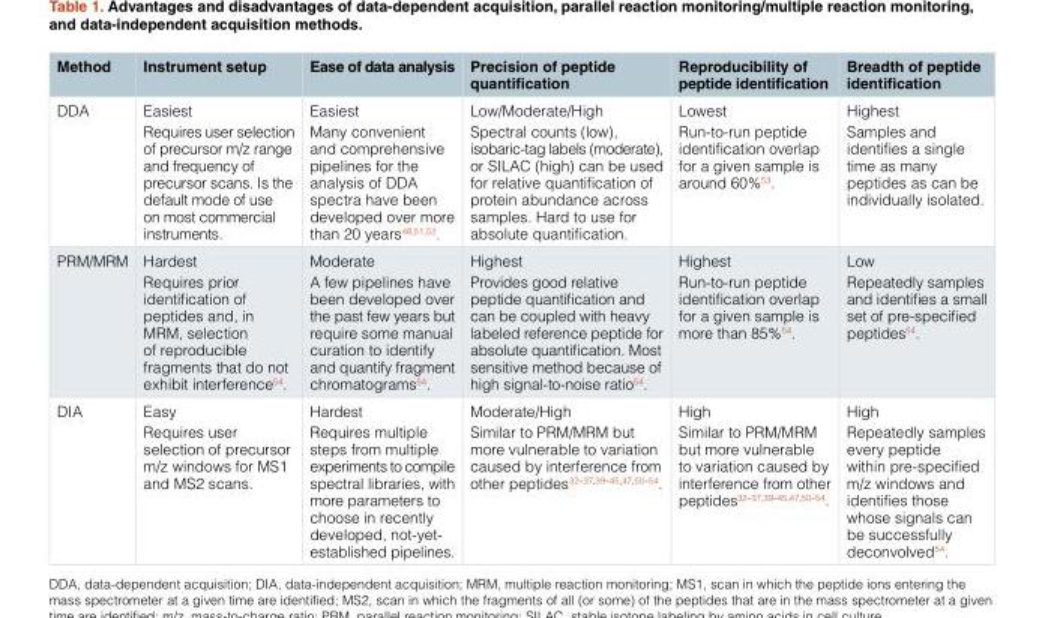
<table><thead><tr><td>Method</td><td>Instrument setup</td><td>Ease of data analysis</td><td>Precision of peptide quantification</td><td>Reproducibility of peptide identification</td><td>Breadth of peptide identification</td></tr></thead><tbody><tr><td>DDA</td><td>Easiest Requires user selection of precursor m/z range and frequency of precursor scans. Is the default mode of use on most commercial instruments.</td><td>Easiest Many convenient and comprehensive pipelines for the analysis of DDA spectra have been developed over more than 20 years<sup>48,51,52</sup>.</td><td>Low/Moderate/High Spectral counts (low), isobaric-tag labels (moderate), or SILAC (high) can be used for relative quantification of protein abundance across samples. Hard to use for absolute quantification.</td><td>Lowest Run-to-run peptide identification overlap for a given sample is around 60%<sup>53</sup>.</td><td>Highest Samples and identifies a single time as many peptides as can be individually isolated.</td></tr><tr><td>PRM/MRM</td><td>Hardest Requires prior identification of peptides and, in MRM, selection of reproducible fragments that do not exhibit interference<sup>54</sup>.</td><td>Moderate A few pipelines have been developed over the past few years but require some manual curation to identify and quantify fragment chromatograms<sup>54</sup>.</td><td>Highest Provides good relative peptide quantification and can be coupled with heavy labeled reference peptide for absolute quantification. Most sensitive method because of high signal-to-noise ratio<sup>54</sup>.</td><td>Highest Run-to-run peptide identification overlap for a given sample is more than 85%<sup>54</sup>.</td><td>Low Repeatedly samples and identifies a small set of pre-specified peptides<sup>54</sup>.</td></tr><tr><td>DIA</td><td>Easy Requires user selection of precursor m/z windows for MS1 and MS2 scans.</td><td>Hardest Requires multiple steps from multiple experiments to compile spectral libraries, with more parameters to choose in recently developed, not-yet- established pipelines.</td><td>Moderate/High Similar to PRM/MRM but more vulnerable to variation caused by interference from other peptides<sup>32–37,39–45,47,50–54</sup>.</td><td>High Similar to PRM/MRM but more vulnerable to variation caused by interference from other peptides<sup>32–37,39–45,47,50–54</sup>.</td><td>High Repeatedly samples every peptide within pre-specified m/z windows and identifies those whose signals can be successfully deconvolved<sup>54</sup>.</td></tr></tbody></table>